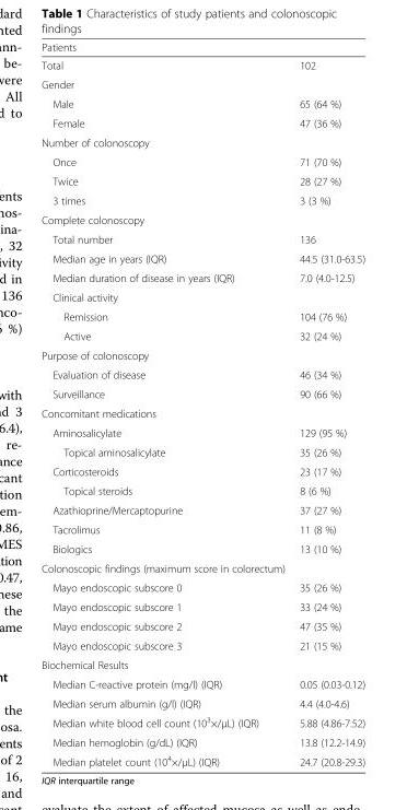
<table><thead><tr><td>Patients</td><td></td></tr></thead><tbody><tr><td>Total</td><td>102</td></tr><tr><td colspan="2">Gender</td></tr><tr><td>Male</td><td>65 (64 %)</td></tr><tr><td>Female</td><td>47 (36 %)</td></tr><tr><td colspan="2">Number of colonoscopy</td></tr><tr><td>Once</td><td>71 (70 %)</td></tr><tr><td>Twice</td><td>28 (27 %)</td></tr><tr><td>3 times</td><td>3 (3 %)</td></tr><tr><td colspan="2">Complete colonoscopy</td></tr><tr><td>Total number</td><td>136</td></tr><tr><td>Median age in years (IQR)</td><td>44.5 (31.0-63.5)</td></tr><tr><td>Median duration of disease in years (IQR)</td><td>7.0 (4.0-12.5)</td></tr><tr><td colspan="2">Clinical activity</td></tr><tr><td>Remission</td><td>104 (76 %)</td></tr><tr><td>Active</td><td>32 (24 %)</td></tr><tr><td colspan="2">Purpose of colonoscopy</td></tr><tr><td>Evaluation of disease</td><td>46 (34 %)</td></tr><tr><td>Surveillance</td><td>90 (66 %)</td></tr><tr><td colspan="2">Concomitant medications</td></tr><tr><td>Aminosalicylate</td><td>129 (95 %)</td></tr><tr><td>Topical aminosalicylate</td><td>35 (26 %)</td></tr><tr><td>Corticosteroids</td><td>23 (17 %)</td></tr><tr><td>Topical steroids</td><td>8 (6 %)</td></tr><tr><td>Azathioprine/Mercaptopurine</td><td>37 (27 %)</td></tr><tr><td>Tacrolimus</td><td>11 (8 %)</td></tr><tr><td>Biologics</td><td>13 (10 %)</td></tr><tr><td colspan="2">Colonoscopic findings (maximum score in colorectum)</td></tr><tr><td>Mayo endoscopic subscore 0</td><td>35 (26 %)</td></tr><tr><td>Mayo endoscopic subscore 1</td><td>33 (24 %)</td></tr><tr><td>Mayo endoscopic subscore 2</td><td>47 (35 %)</td></tr><tr><td>Mayo endoscopic subscore 3</td><td>21 (15 %)</td></tr><tr><td colspan="2">Biochemical Results</td></tr><tr><td>Median C-reactive protein (mg/l) (IQR)</td><td>0.05 (0.03-0.12)</td></tr><tr><td>Median serum albumin (g/l) (IQR)</td><td>4.4 (4.0-4.6)</td></tr><tr><td>Median white blood cell count (10<sup>3</sup>×/μL) (IQR)</td><td>5.88 (4.86-7.52)</td></tr><tr><td>Median hemoglobin (g/dL) (IQR)</td><td>13.8 (12.2-14.9)</td></tr><tr><td>Median platelet count (10<sup>4</sup>×/μL) (IQR)</td><td>24.7 (20.8-29.3)</td></tr></tbody></table>